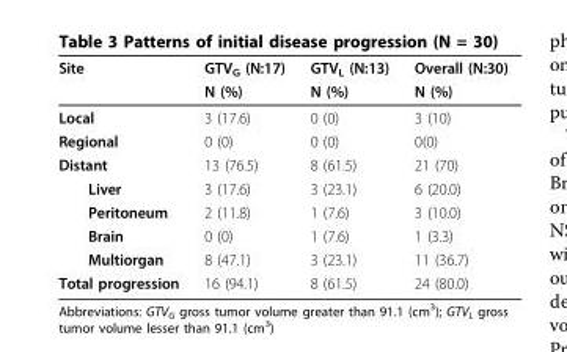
<table><thead><tr><td rowspan="2">Site</td><td rowspan="2">GTV<sub>G</sub> (N:17) N (%)</td><td rowspan="2">GTV<sub>L</sub> (N:13) N (%)</td><td rowspan="2">Overall (N:30) N (%)</td></tr><tr></tr></thead><tbody><tr><td>Local</td><td>3 (17.6)</td><td>0 (0)</td><td>3 (10)</td></tr><tr><td>Regional</td><td>0 (0)</td><td>0 (0)</td><td>0(0)</td></tr><tr><td>Distant</td><td>13 (76.5)</td><td>8 (61.5)</td><td>21 (70)</td></tr><tr><td>Liver</td><td>3 (17.6)</td><td>3 (23.1)</td><td>6 (20.0)</td></tr><tr><td>Peritoneum</td><td>2 (11.8)</td><td>1 (7.6)</td><td>3 (10.0)</td></tr><tr><td>Brain</td><td>0 (0)</td><td>1 (7.6)</td><td>1 (3.3)</td></tr><tr><td>Multiorgan</td><td>8 (47.1)</td><td>3 (23.1)</td><td>11 (36.7)</td></tr><tr><td>Total progression</td><td>16 (94.1)</td><td>8 (61.5)</td><td>24 (80.0)</td></tr></tbody></table>